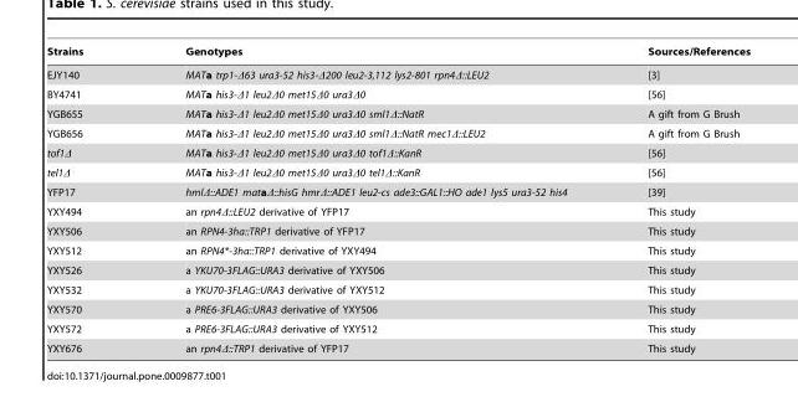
<table><thead><tr><td>Strains</td><td>Genotypes</td><td>Sources/References</td></tr></thead><tbody><tr><td>EJY140</td><td>MATa trp1-Δ63 ura3-52 his3-Δ200 leu2-3,112 lys2-801 rpn4Δ::LEU2</td><td>[3]</td></tr><tr><td>BY4741</td><td>MATa his3-Δ1 leu2Δ0 met15Δ0 ura3Δ0</td><td>[56]</td></tr><tr><td>YGB655</td><td>MATa his3-Δ1 leu2Δ0 met15Δ0 ura3Δ0 sml1Δ::NatR</td><td>A gift from G Brush</td></tr><tr><td>YGB656</td><td>MATa his3-Δ1 leu2Δ0 met15Δ0 ura3Δ0 sml1Δ::NatR mec1Δ::LEU2</td><td>A gift from G Brush</td></tr><tr><td>tof1Δ</td><td>MATa his3-Δ1 leu2Δ0 met15Δ0 ura3Δ0 tof1Δ::KanR</td><td>[56]</td></tr><tr><td>tel1Δ</td><td>MATa his3-Δ1 leu2Δ0 met15Δ0 ura3Δ0 tel1Δ::KanR</td><td>[56]</td></tr><tr><td>YFP17</td><td>hmlΔ::ADE1 mataΔ::hisG hmrΔ::ADE1 leu2-cs ade3::GAL1::HO ade1 lys5 ura3-52 his4</td><td>[39]</td></tr><tr><td>YXY494</td><td>an rpn4Δ::LEU2 derivative of YFP17</td><td>This study</td></tr><tr><td>YXY506</td><td>an RPN4-3ha::TRP1 derivative of YFP17</td><td>This study</td></tr><tr><td>YXY512</td><td>an RPN4*-3ha::TRP1 derivative of YXY494</td><td>This study</td></tr><tr><td>YXY526</td><td>a YKU70-3FLAG::URA3 derivative of YXY506</td><td>This study</td></tr><tr><td>YXY532</td><td>a YKU70-3FLAG::URA3 derivative of YXY512</td><td>This study</td></tr><tr><td>YXY570</td><td>a PRE6-3FLAG::URA3 derivative of YXY506</td><td>This study</td></tr><tr><td>YXY572</td><td>a PRE6-3FLAG::URA3 derivative of YXY512</td><td>This study</td></tr><tr><td>YXY676</td><td>an rpn4Δ::TRP1 derivative of YFP17</td><td>This study</td></tr></tbody></table>